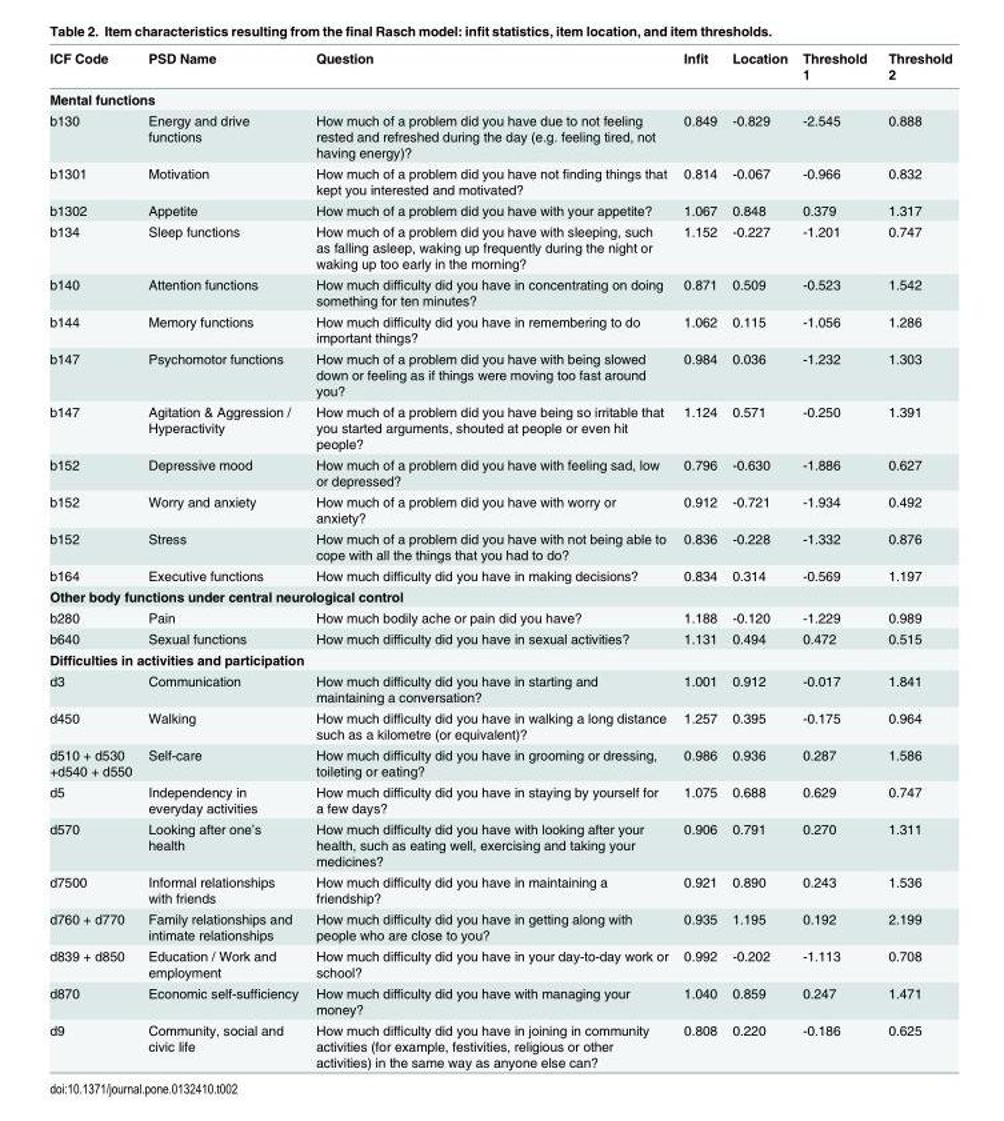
<table><thead><tr><td>ICF Code</td><td>PSD Name</td><td>Question</td><td>Infit</td><td>Location</td><td>Threshold 1</td><td>Threshold 2</td></tr></thead><tbody><tr><td colspan="7">Mental functions</td></tr><tr><td>b130</td><td>Energy and drive functions</td><td>How much of a problem did you have due to not feeling rested and refreshed during the day (e.g. feeling tired, not having energy)?</td><td>0.849</td><td>-0.829</td><td>-2.545</td><td>0.888</td></tr><tr><td>b1301</td><td>Motivation</td><td>How much of a problem did you have not finding things that kept you interested and motivated?</td><td>0.814</td><td>-0.067</td><td>-0.966</td><td>0.832</td></tr><tr><td>b1302</td><td>Appetite</td><td>How much of a problem did you have with your appetite?</td><td>1.067</td><td>0.848</td><td>0.379</td><td>1.317</td></tr><tr><td>b134</td><td>Sleep functions</td><td>How much of a problem did you have with sleeping, such as falling asleep, waking up frequently during the night or waking up too early in the morning?</td><td>1.152</td><td>-0.227</td><td>-1.201</td><td>0.747</td></tr><tr><td>b140</td><td>Attention functions</td><td>How much difficulty did you have in concentrating on doing something for ten minutes?</td><td>0.871</td><td>0.509</td><td>-0.523</td><td>1.542</td></tr><tr><td>b144</td><td>Memory functions</td><td>How much difficulty did you have in remembering to do important things?</td><td>1.062</td><td>0.115</td><td>-1.056</td><td>1.286</td></tr><tr><td>b147</td><td>Psychomotor functions</td><td>How much of a problem did you have with being slowed down or feeling as if things were moving too fast around you?</td><td>0.984</td><td>0.036</td><td>-1.232</td><td>1.303</td></tr><tr><td>b147</td><td>Agitation &amp; Aggression / Hyperactivity</td><td>How much of a problem did you have being so irritable that you started arguments, shouted at people or even hit people?</td><td>1.124</td><td>0.571</td><td>-0.250</td><td>1.391</td></tr><tr><td>b152</td><td>Depressive mood</td><td>How much of a problem did you have with feeling sad, low or depressed?</td><td>0.796</td><td>-0.630</td><td>-1.886</td><td>0.627</td></tr><tr><td>b152</td><td>Worry and anxiety</td><td>How much of a problem did you have with worry or anxiety?</td><td>0.912</td><td>-0.721</td><td>-1.934</td><td>0.492</td></tr><tr><td>b152</td><td>Stress</td><td>How much of a problem did you have with not being able to cope with all the things that you had to do?</td><td>0.836</td><td>-0.228</td><td>-1.332</td><td>0.876</td></tr><tr><td>b164</td><td>Executive functions</td><td>How much difficulty did you have in making decisions?</td><td>0.834</td><td>0.314</td><td>-0.569</td><td>1.197</td></tr><tr><td colspan="7">Other body functions under central neurological control</td></tr><tr><td>b280</td><td>Pain</td><td>How much bodily ache or pain did you have?</td><td>1.188</td><td>-0.120</td><td>-1.229</td><td>0.989</td></tr><tr><td>b640</td><td>Sexual functions</td><td>How much difficulty did you have in sexual activities?</td><td>1.131</td><td>0.494</td><td>0.472</td><td>0.515</td></tr><tr><td colspan="7">Difficulties in activities and participation</td></tr><tr><td>d3</td><td>Communication</td><td>How much difficulty did you have in starting and maintaining a conversation?</td><td>1.001</td><td>0.912</td><td>-0.017</td><td>1.841</td></tr><tr><td>d450</td><td>Walking</td><td>How much difficulty did you have in walking a long distance such as a kilometre (or equivalent)?</td><td>1.257</td><td>0.395</td><td>-0.175</td><td>0.964</td></tr><tr><td>d510 + d530 +d540 + d550</td><td>Self-care</td><td>How much difficulty did you have in grooming or dressing, toileting or eating?</td><td>0.986</td><td>0.936</td><td>0.287</td><td>1.586</td></tr><tr><td>d5</td><td>Independency in everyday activities</td><td>How much difficulty did you have in staying by yourself for a few days?</td><td>1.075</td><td>0.688</td><td>0.629</td><td>0.747</td></tr><tr><td>d570</td><td>Looking after one’s health</td><td>How much difficulty did you have with looking after your health, such as eating well, exercising and taking your medicines?</td><td>0.906</td><td>0.791</td><td>0.270</td><td>1.311</td></tr><tr><td>d7500</td><td>Informal relationships with friends</td><td>How much difficulty did you have in maintaining a friendship?</td><td>0.921</td><td>0.890</td><td>0.243</td><td>1.536</td></tr><tr><td>d760 + d770</td><td>Family relationships and intimate relationships</td><td>How much difficulty did you have in getting along with people who are close to you?</td><td>0.935</td><td>1.195</td><td>0.192</td><td>2.199</td></tr><tr><td>d839 + d850</td><td>Education / Work and employment</td><td>How much difficulty did you have in your day-to-day work or school?</td><td>0.992</td><td>-0.202</td><td>-1.113</td><td>0.708</td></tr><tr><td>d870</td><td>Economic self-sufficiency</td><td>How much difficulty did you have with managing your money?</td><td>1.040</td><td>0.859</td><td>0.247</td><td>1.471</td></tr><tr><td>d9</td><td>Community, social and civic life</td><td>How much difficulty did you have in joining in community activities (for example, festivities, religious or other activities) in the same way as anyone else can?</td><td>0.808</td><td>0.220</td><td>-0.186</td><td>0.625</td></tr></tbody></table>